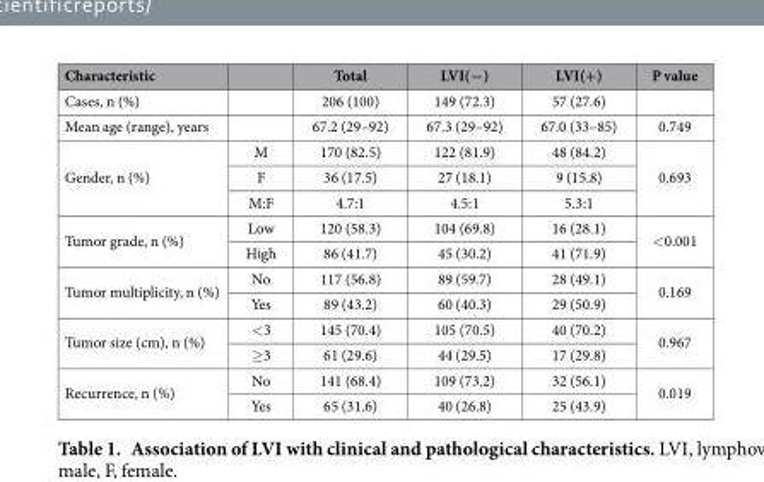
<table><thead><tr><td>Characteristic</td><td></td><td>Total</td><td>LVI(−)</td><td>LVI(+)</td><td>P value</td></tr></thead><tbody><tr><td>Cases, n (%)</td><td></td><td>206 (100)</td><td>149 (72.3)</td><td>57 (27.6)</td><td></td></tr><tr><td>Mean age (range), years</td><td></td><td>67.2 (29–92)</td><td>67.3 (29–92)</td><td>67.0 (33–85)</td><td>0.749</td></tr><tr><td rowspan="3">Gender, n (%)</td><td>M</td><td>170 (82.5)</td><td>122 (81.9)</td><td>48 (84.2)</td><td rowspan="3">0.693</td></tr><tr><td>F</td><td>36 (17.5)</td><td>27 (18.1)</td><td>9 (15.8)</td></tr><tr><td>M:F</td><td>4.7:1</td><td>4.5:1</td><td>5.3:1</td></tr><tr><td rowspan="2">Tumor grade, n (%)</td><td>Low</td><td>120 (58.3)</td><td>104 (69.8)</td><td>16 (28.1)</td><td rowspan="2">&lt; 0.001</td></tr><tr><td>High</td><td>86 (41.7)</td><td>45 (30.2)</td><td>41 (71.9)</td></tr><tr><td rowspan="2">Tumor multiplicity, n (%)</td><td>No</td><td>117 (56.8)</td><td>89 (59.7)</td><td>28 (49.1)</td><td rowspan="2">0.169</td></tr><tr><td>Yes</td><td>89 (43.2)</td><td>60 (40.3)</td><td>29 (50.9)</td></tr><tr><td rowspan="2">Tumor size (cm), n (%)</td><td>&lt; 3</td><td>145 (70.4)</td><td>105 (70.5)</td><td>40 (70.2)</td><td rowspan="2">0.967</td></tr><tr><td>≥ 3</td><td>61 (29.6)</td><td>44 (29.5)</td><td>17 (29.8)</td></tr><tr><td rowspan="2">Recurrence, n (%)</td><td>No</td><td>141 (68.4)</td><td>109 (73.2)</td><td>32 (56.1)</td><td rowspan="2">0.019</td></tr><tr><td>Yes</td><td>65 (31.6)</td><td>40 (26.8)</td><td>25 (43.9)</td></tr></tbody></table>